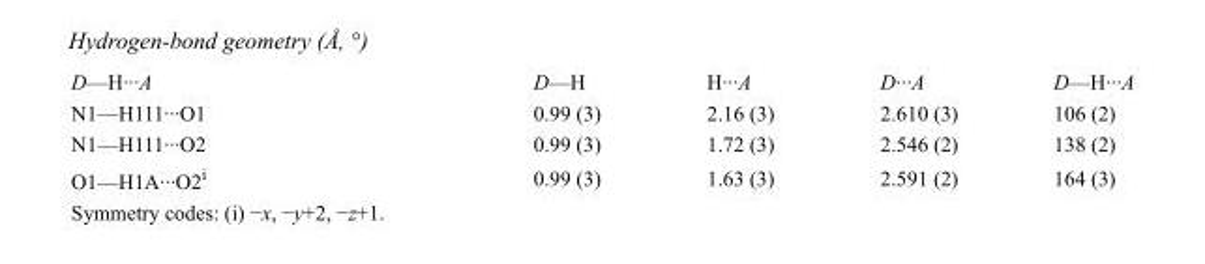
<table><tbody><tr><td>D—H···A</td><td>D—H</td><td>H···A</td><td>D···A</td><td>D—H···A</td></tr><tr><td>N1—H111···O1</td><td>0.99 (3)</td><td>2.16 (3)</td><td>2.610 (3)</td><td>106 (2)</td></tr><tr><td>N1—H111···O2</td><td>0.99 (3)</td><td>1.72 (3)</td><td>2.546 (2)</td><td>138 (2)</td></tr><tr><td>O1—H1A···O2<sup>i</sup></td><td>0.99 (3)</td><td>1.63 (3)</td><td>2.591 (2)</td><td>164 (3)</td></tr></tbody></table>